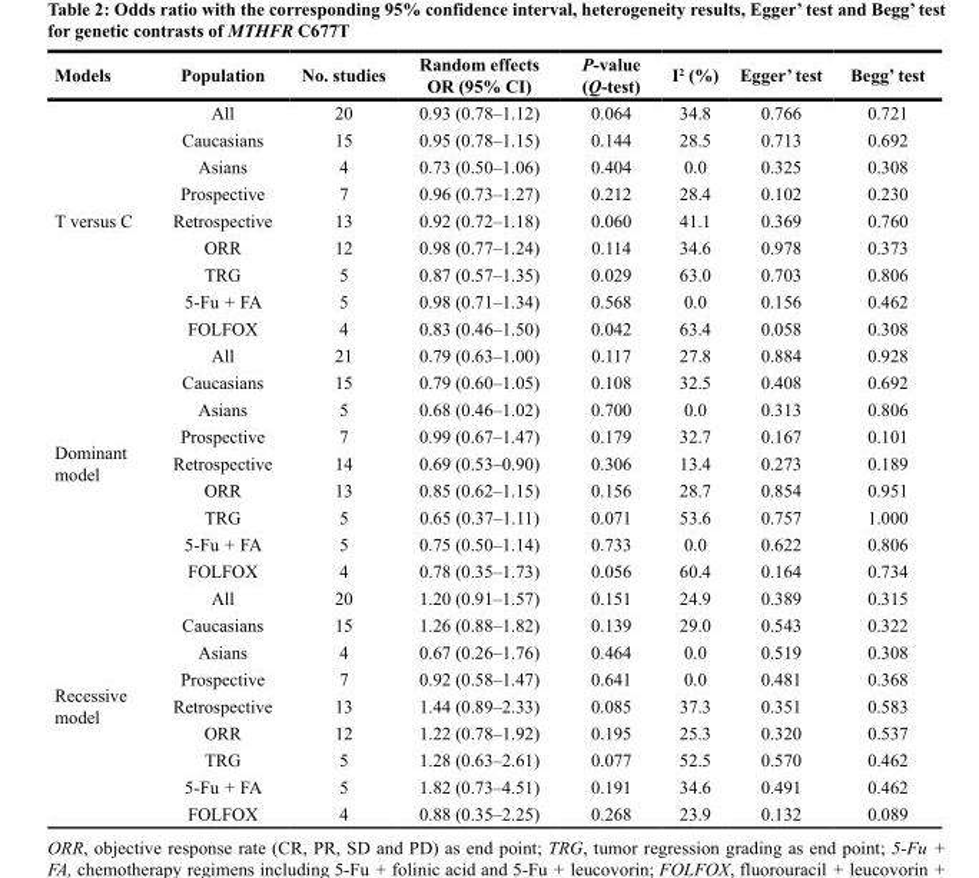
<table><thead><tr><td>Models</td><td>Population</td><td>No. studies</td><td>Random effects OR (95% CI)</td><td>P-value (Q-test)</td><td>I<sup>2</sup> (%)</td><td>Egger’ test</td><td>Begg’ test</td></tr></thead><tbody><tr><td rowspan="9">T versus C</td><td>All</td><td>20</td><td>0.93 (0.78–1.12)</td><td>0.064</td><td>34.8</td><td>0.766</td><td>0.721</td></tr><tr><td>Caucasians</td><td>15</td><td>0.95 (0.78–1.15)</td><td>0.144</td><td>28.5</td><td>0.713</td><td>0.692</td></tr><tr><td>Asians</td><td>4</td><td>0.73 (0.50–1.06)</td><td>0.404</td><td>0.0</td><td>0.325</td><td>0.308</td></tr><tr><td>Prospective</td><td>7</td><td>0.96 (0.73–1.27)</td><td>0.212</td><td>28.4</td><td>0.102</td><td>0.230</td></tr><tr><td>Retrospective</td><td>13</td><td>0.92 (0.72–1.18)</td><td>0.060</td><td>41.1</td><td>0.369</td><td>0.760</td></tr><tr><td>ORR</td><td>12</td><td>0.98 (0.77–1.24)</td><td>0.114</td><td>34.6</td><td>0.978</td><td>0.373</td></tr><tr><td>TRG</td><td>5</td><td>0.87 (0.57–1.35)</td><td>0.029</td><td>63.0</td><td>0.703</td><td>0.806</td></tr><tr><td>5-Fu + FA</td><td>5</td><td>0.98 (0.71–1.34)</td><td>0.568</td><td>0.0</td><td>0.156</td><td>0.462</td></tr><tr><td>FOLFOX</td><td>4</td><td>0.83 (0.46–1.50)</td><td>0.042</td><td>63.4</td><td>0.058</td><td>0.308</td></tr><tr><td rowspan="9">Dominant model</td><td>All</td><td>21</td><td>0.79 (0.63–1.00)</td><td>0.117</td><td>27.8</td><td>0.884</td><td>0.928</td></tr><tr><td>Caucasians</td><td>15</td><td>0.79 (0.60–1.05)</td><td>0.108</td><td>32.5</td><td>0.408</td><td>0.692</td></tr><tr><td>Asians</td><td>5</td><td>0.68 (0.46–1.02)</td><td>0.700</td><td>0.0</td><td>0.313</td><td>0.806</td></tr><tr><td>Prospective</td><td>7</td><td>0.99 (0.67–1.47)</td><td>0.179</td><td>32.7</td><td>0.167</td><td>0.101</td></tr><tr><td>Retrospective</td><td>14</td><td>0.69 (0.53–0.90)</td><td>0.306</td><td>13.4</td><td>0.273</td><td>0.189</td></tr><tr><td>ORR</td><td>13</td><td>0.85 (0.62–1.15)</td><td>0.156</td><td>28.7</td><td>0.854</td><td>0.951</td></tr><tr><td>TRG</td><td>5</td><td>0.65 (0.37–1.11)</td><td>0.071</td><td>53.6</td><td>0.757</td><td>1.000</td></tr><tr><td>5-Fu + FA</td><td>5</td><td>0.75 (0.50–1.14)</td><td>0.733</td><td>0.0</td><td>0.622</td><td>0.806</td></tr><tr><td>FOLFOX</td><td>4</td><td>0.78 (0.35–1.73)</td><td>0.056</td><td>60.4</td><td>0.164</td><td>0.734</td></tr><tr><td rowspan="9">Recessive model</td><td>All</td><td>20</td><td>1.20 (0.91–1.57)</td><td>0.151</td><td>24.9</td><td>0.389</td><td>0.315</td></tr><tr><td>Caucasians</td><td>15</td><td>1.26 (0.88–1.82)</td><td>0.139</td><td>29.0</td><td>0.543</td><td>0.322</td></tr><tr><td>Asians</td><td>4</td><td>0.67 (0.26–1.76)</td><td>0.464</td><td>0.0</td><td>0.519</td><td>0.308</td></tr><tr><td>Prospective</td><td>7</td><td>0.92 (0.58–1.47)</td><td>0.641</td><td>0.0</td><td>0.481</td><td>0.368</td></tr><tr><td>Retrospective</td><td>13</td><td>1.44 (0.89–2.33)</td><td>0.085</td><td>37.3</td><td>0.351</td><td>0.583</td></tr><tr><td>ORR</td><td>12</td><td>1.22 (0.78–1.92)</td><td>0.195</td><td>25.3</td><td>0.320</td><td>0.537</td></tr><tr><td>TRG</td><td>5</td><td>1.28 (0.63–2.61)</td><td>0.077</td><td>52.5</td><td>0.570</td><td>0.462</td></tr><tr><td>5-Fu + FA</td><td>5</td><td>1.82 (0.73–4.51)</td><td>0.191</td><td>34.6</td><td>0.491</td><td>0.462</td></tr><tr><td>FOLFOX</td><td>4</td><td>0.88 (0.35–2.25)</td><td>0.268</td><td>23.9</td><td>0.132</td><td>0.089</td></tr></tbody></table>